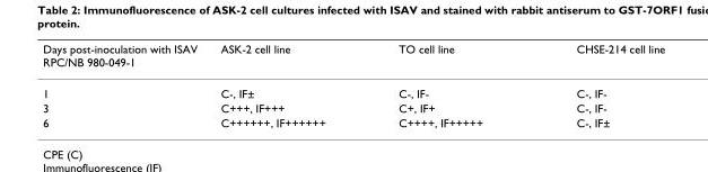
<table><thead><tr><td>Days post-inoculation with ISAV RPC/NB 980-049-1</td><td>ASK-2 cell line</td><td>TO cell line</td><td>CHSE-214 cell line</td></tr></thead><tbody><tr><td>1</td><td>C-, IF±</td><td>C-, IF-</td><td>C-, IF-</td></tr><tr><td>3</td><td>C+++, IF+++</td><td>C+, IF+</td><td>C-, IF-</td></tr><tr><td>6</td><td>C++++++, IF++++++</td><td>C++++, IF+++++</td><td>C-, IF±</td></tr></tbody></table>